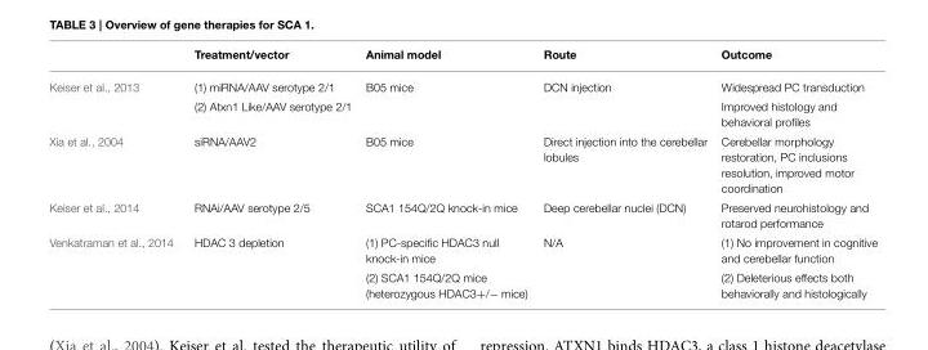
<table><thead><tr><td></td><td>Treatment/vector</td><td>Animal model</td><td>Route</td><td>Outcome</td></tr></thead><tbody><tr><td rowspan="2">Keiser et al., 2013</td><td>(1) miRNA/AAV serotype 2/1</td><td>B05 mice</td><td>DCN injection</td><td>Widespread PC transduction</td></tr><tr><td>(2) Atxn1 Like/AAV serotype 2/1</td><td></td><td></td><td>Improved histology and behavioral profiles</td></tr><tr><td>Xia et al., 2004</td><td>siRNA/AAV2</td><td>B05 mice</td><td>Direct injection into the cerebellar lobules</td><td>Cerebellar morphology restoration, PC inclusions resolution, improved motor coordination</td></tr><tr><td>Keiser et al., 2014</td><td>RNAi/AAV serotype 2/5</td><td>SCA1 154Q/2Q knock-in mice</td><td>Deep cerebellar nuclei (DCN)</td><td>Preserved neurohistology and rotarod performance</td></tr><tr><td rowspan="2">Venkatraman et al., 2014</td><td>HDAC 3 depletion</td><td>(1) PC-specific HDAC3 null knock-in mice</td><td>N/A</td><td>(1) No improvement in cognitive and cerebellar function</td></tr><tr><td></td><td>(2) SCA1 154Q/2Q mice (heterozygous HDAC3+/− mice)</td><td></td><td>(2) Deleterious effects both behaviorally and histologically</td></tr></tbody></table>